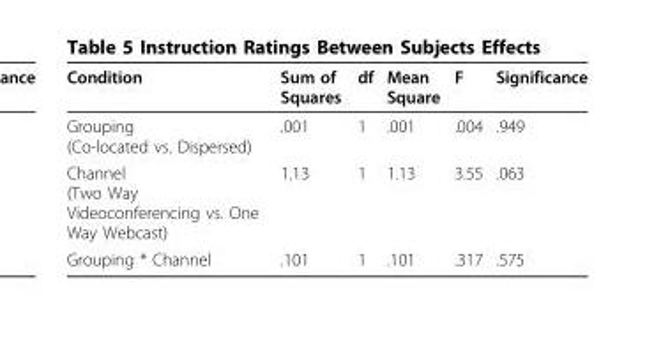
<table><thead><tr><td>Condition</td><td>Sum of Squares</td><td>df</td><td>Mean Square</td><td>F</td><td>Significance</td></tr></thead><tbody><tr><td>Grouping (Co-located vs. Dispersed)</td><td>.001</td><td>1</td><td>.001</td><td>.004</td><td>.949</td></tr><tr><td>Channel (Two Way Videoconferencing vs. One Way Webcast)</td><td>1.13</td><td>1</td><td>1.13</td><td>3.55</td><td>.063</td></tr><tr><td>Grouping * Channel</td><td>.101</td><td>1</td><td>.101</td><td>.317</td><td>.575</td></tr></tbody></table>